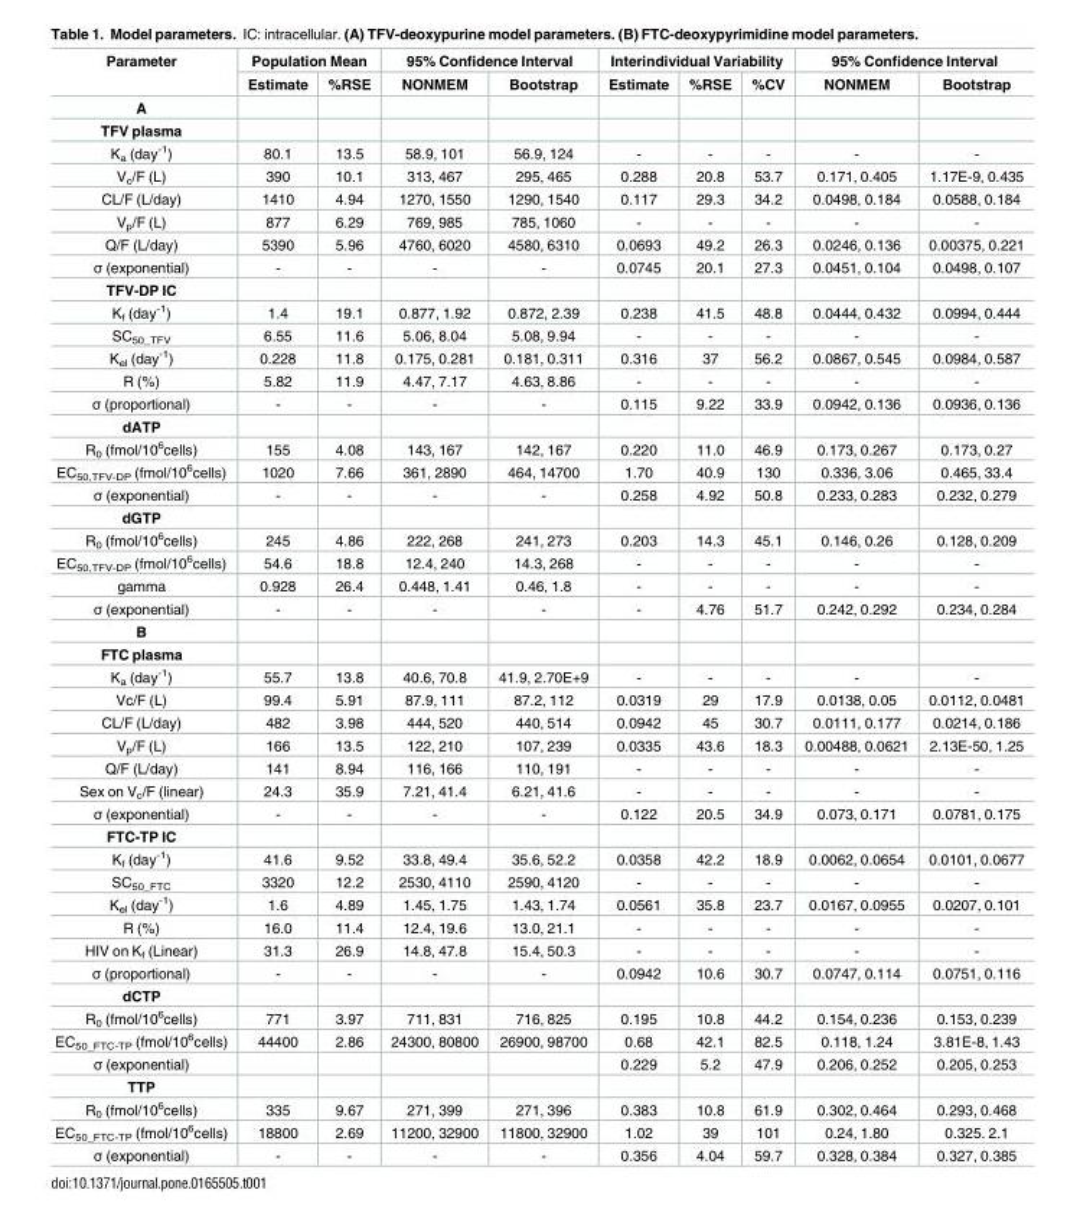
<table><thead><tr><td rowspan="2">Parameter</td><td colspan="2">Population Mean</td><td colspan="2">95% Confidence Interval</td><td colspan="3">Interindividual Variability</td><td colspan="2">95% Confidence Interval</td></tr><tr><td>Estimate</td><td>%RSE</td><td>NONMEM</td><td>Bootstrap</td><td>Estimate</td><td>%RSE</td><td>%CV</td><td>NONMEM</td><td>Bootstrap</td></tr></thead><tbody><tr><td colspan="10">A</td></tr><tr><td colspan="10">TFV plasma</td></tr><tr><td>K<sub>a</sub> (day<sup>-1</sup>)</td><td>80.1</td><td>13.5</td><td>58.9, 101</td><td>56.9, 124</td><td>-</td><td>-</td><td>-</td><td>-</td><td>-</td></tr><tr><td>V<sub>c</sub>/F (L)</td><td>390</td><td>10.1</td><td>313, 467</td><td>295, 465</td><td>0.288</td><td>20.8</td><td>53.7</td><td>0.171, 0.405</td><td>1.17E-9, 0.435</td></tr><tr><td>CL/F (L/day)</td><td>1410</td><td>4.94</td><td>1270, 1550</td><td>1290, 1540</td><td>0.117</td><td>29.3</td><td>34.2</td><td>0.0498, 0.184</td><td>0.0588, 0.184</td></tr><tr><td>V<sub>p</sub>/F (L)</td><td>877</td><td>6.29</td><td>769, 985</td><td>785, 1060</td><td>-</td><td>-</td><td>-</td><td>-</td><td>-</td></tr><tr><td>Q/F (L/day)</td><td>5390</td><td>5.96</td><td>4760, 6020</td><td>4580, 6310</td><td>0.0693</td><td>49.2</td><td>26.3</td><td>0.0246, 0.136</td><td>0.00375, 0.221</td></tr><tr><td>σ (exponential)</td><td>-</td><td>-</td><td>-</td><td>-</td><td>0.0745</td><td>20.1</td><td>27.3</td><td>0.0451, 0.104</td><td>0.0498, 0.107</td></tr><tr><td colspan="10">TFV-DP IC</td></tr><tr><td>K<sub>f</sub> (day<sup>-1</sup>)</td><td>1.4</td><td>19.1</td><td>0.877, 1.92</td><td>0.872, 2.39</td><td>0.238</td><td>41.5</td><td>48.8</td><td>0.0444, 0.432</td><td>0.0994, 0.444</td></tr><tr><td>SC<sub>50_TFV</sub></td><td>6.55</td><td>11.6</td><td>5.06, 8.04</td><td>5.08, 9.94</td><td>-</td><td>-</td><td>-</td><td>-</td><td>-</td></tr><tr><td>K<sub>el</sub> (day<sup>-1</sup>)</td><td>0.228</td><td>11.8</td><td>0.175, 0.281</td><td>0.181, 0.311</td><td>0.316</td><td>37</td><td>56.2</td><td>0.0867, 0.545</td><td>0.0984, 0.587</td></tr><tr><td>R (%)</td><td>5.82</td><td>11.9</td><td>4.47, 7.17</td><td>4.63, 8.86</td><td>-</td><td>-</td><td>-</td><td>-</td><td>-</td></tr><tr><td>σ (proportional)</td><td>-</td><td>-</td><td>-</td><td>-</td><td>0.115</td><td>9.22</td><td>33.9</td><td>0.0942, 0.136</td><td>0.0936, 0.136</td></tr><tr><td colspan="10">dATP</td></tr><tr><td>R<sub>0</sub> (fmol/10<sup>6</sup>cells)</td><td>155</td><td>4.08</td><td>143, 167</td><td>142, 167</td><td>0.220</td><td>11.0</td><td>46.9</td><td>0.173, 0.267</td><td>0.173, 0.27</td></tr><tr><td>EC<sub>50,TFV-DP</sub> (fmol/10<sup>6</sup>cells)</td><td>1020</td><td>7.66</td><td>361, 2890</td><td>464, 14700</td><td>1.70</td><td>40.9</td><td>130</td><td>0.336, 3.06</td><td>0.465, 33.4</td></tr><tr><td>σ (exponential)</td><td>-</td><td>-</td><td>-</td><td>-</td><td>0.258</td><td>4.92</td><td>50.8</td><td>0.233, 0.283</td><td>0.232, 0.279</td></tr><tr><td colspan="10">dGTP</td></tr><tr><td>R<sub>0</sub> (fmol/10<sup>6</sup>cells)</td><td>245</td><td>4.86</td><td>222, 268</td><td>241, 273</td><td>0.203</td><td>14.3</td><td>45.1</td><td>0.146, 0.26</td><td>0.128, 0.209</td></tr><tr><td>EC<sub>50,TFV-DP</sub> (fmol/10<sup>6</sup>cells)</td><td>54.6</td><td>18.8</td><td>12.4, 240</td><td>14.3, 268</td><td>-</td><td>-</td><td>-</td><td>-</td><td>-</td></tr><tr><td>gamma</td><td>0.928</td><td>26.4</td><td>0.448, 1.41</td><td>0.46, 1.8</td><td>-</td><td>-</td><td>-</td><td>-</td><td>-</td></tr><tr><td>σ (exponential)</td><td>-</td><td>-</td><td>-</td><td>-</td><td>-</td><td>4.76</td><td>51.7</td><td>0.242, 0.292</td><td>0.234, 0.284</td></tr><tr><td colspan="10">B</td></tr><tr><td colspan="10">FTC plasma</td></tr><tr><td>K<sub>a</sub> (day<sup>-1</sup>)</td><td>55.7</td><td>13.8</td><td>40.6, 70.8</td><td>41.9, 2.70E+9</td><td>-</td><td>-</td><td>-</td><td>-</td><td>-</td></tr><tr><td>Vc/F (L)</td><td>99.4</td><td>5.91</td><td>87.9, 111</td><td>87.2, 112</td><td>0.0319</td><td>29</td><td>17.9</td><td>0.0138, 0.05</td><td>0.0112, 0.0481</td></tr><tr><td>CL/F (L/day)</td><td>482</td><td>3.98</td><td>444, 520</td><td>440, 514</td><td>0.0942</td><td>45</td><td>30.7</td><td>0.0111, 0.177</td><td>0.0214, 0.186</td></tr><tr><td>V<sub>p</sub>/F (L)</td><td>166</td><td>13.5</td><td>122, 210</td><td>107, 239</td><td>0.0335</td><td>43.6</td><td>18.3</td><td>0.00488, 0.0621</td><td>2.13E-50, 1.25</td></tr><tr><td>Q/F (L/day)</td><td>141</td><td>8.94</td><td>116, 166</td><td>110, 191</td><td>-</td><td>-</td><td>-</td><td>-</td><td>-</td></tr><tr><td>Sex on V<sub>c</sub>/F (linear)</td><td>24.3</td><td>35.9</td><td>7.21, 41.4</td><td>6.21, 41.6</td><td>-</td><td>-</td><td>-</td><td>-</td><td>-</td></tr><tr><td>σ (exponential)</td><td>-</td><td>-</td><td>-</td><td>-</td><td>0.122</td><td>20.5</td><td>34.9</td><td>0.073, 0.171</td><td>0.0781, 0.175</td></tr><tr><td colspan="10">FTC-TP IC</td></tr><tr><td>K<sub>f</sub> (day<sup>-1</sup>)</td><td>41.6</td><td>9.52</td><td>33.8, 49.4</td><td>35.6, 52.2</td><td>0.0358</td><td>42.2</td><td>18.9</td><td>0.0062, 0.0654</td><td>0.0101, 0.0677</td></tr><tr><td>SC<sub>50_FTC</sub></td><td>3320</td><td>12.2</td><td>2530, 4110</td><td>2590, 4120</td><td>-</td><td>-</td><td>-</td><td>-</td><td>-</td></tr><tr><td>K<sub>el</sub> (day<sup>-1</sup>)</td><td>1.6</td><td>4.89</td><td>1.45, 1.75</td><td>1.43, 1.74</td><td>0.0561</td><td>35.8</td><td>23.7</td><td>0.0167, 0.0955</td><td>0.0207, 0.101</td></tr><tr><td>R (%)</td><td>16.0</td><td>11.4</td><td>12.4, 19.6</td><td>13.0, 21.1</td><td>-</td><td>-</td><td>-</td><td>-</td><td>-</td></tr><tr><td>HIV on K<sub>f</sub> (Linear)</td><td>31.3</td><td>26.9</td><td>14.8, 47.8</td><td>15.4, 50.3</td><td>-</td><td>-</td><td>-</td><td>-</td><td>-</td></tr><tr><td>σ (proportional)</td><td>-</td><td>-</td><td>-</td><td>-</td><td>0.0942</td><td>10.6</td><td>30.7</td><td>0.0747, 0.114</td><td>0.0751, 0.116</td></tr><tr><td colspan="10">dCTP</td></tr><tr><td>R<sub>0</sub> (fmol/10<sup>6</sup>cells)</td><td>771</td><td>3.97</td><td>711, 831</td><td>716, 825</td><td>0.195</td><td>10.8</td><td>44.2</td><td>0.154, 0.236</td><td>0.153, 0.239</td></tr><tr><td>EC<sub>50_FTC-TP</sub> (fmol/10<sup>6</sup>cells)</td><td>44400</td><td>2.86</td><td>24300, 80800</td><td>26900, 98700</td><td>0.68</td><td>42.1</td><td>82.5</td><td>0.118, 1.24</td><td>3.81E-8, 1.43</td></tr><tr><td>σ (exponential)</td><td></td><td></td><td></td><td></td><td>0.229</td><td>5.2</td><td>47.9</td><td>0.206, 0.252</td><td>0.205, 0.253</td></tr><tr><td colspan="10">TTP</td></tr><tr><td>R<sub>0</sub> (fmol/10<sup>6</sup>cells)</td><td>335</td><td>9.67</td><td>271, 399</td><td>271, 396</td><td>0.383</td><td>10.8</td><td>61.9</td><td>0.302, 0.464</td><td>0.293, 0.468</td></tr><tr><td>EC<sub>50_FTC-TP</sub> (fmol/10<sup>6</sup>cells)</td><td>18800</td><td>2.69</td><td>11200, 32900</td><td>11800, 32900</td><td>1.02</td><td>39</td><td>101</td><td>0.24, 1.80</td><td>0.325. 2.1</td></tr><tr><td>σ (exponential)</td><td>-</td><td>-</td><td>-</td><td>-</td><td>0.356</td><td>4.04</td><td>59.7</td><td>0.328, 0.384</td><td>0.327, 0.385</td></tr></tbody></table>